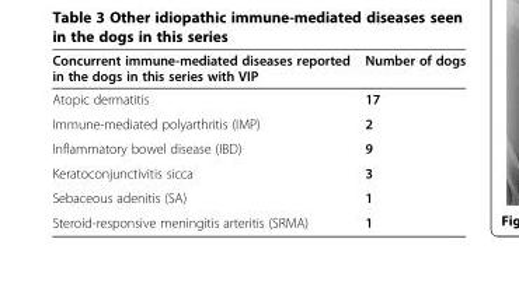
<table><thead><tr><td>Concurrent immune-mediated diseases reported in the dogs in this series with VIP</td><td>Number of dogs</td></tr></thead><tbody><tr><td>Atopic dermatitis</td><td>17</td></tr><tr><td>Immune-mediated polyarthritis (IMP)</td><td>2</td></tr><tr><td>Inflammatory bowel disease (IBD)</td><td>9</td></tr><tr><td>Keratoconjunctivitis sicca</td><td>3</td></tr><tr><td>Sebaceous adenitis (SA)</td><td>1</td></tr><tr><td>Steroid-responsive meningitis arteritis (SRMA)</td><td>1</td></tr></tbody></table>